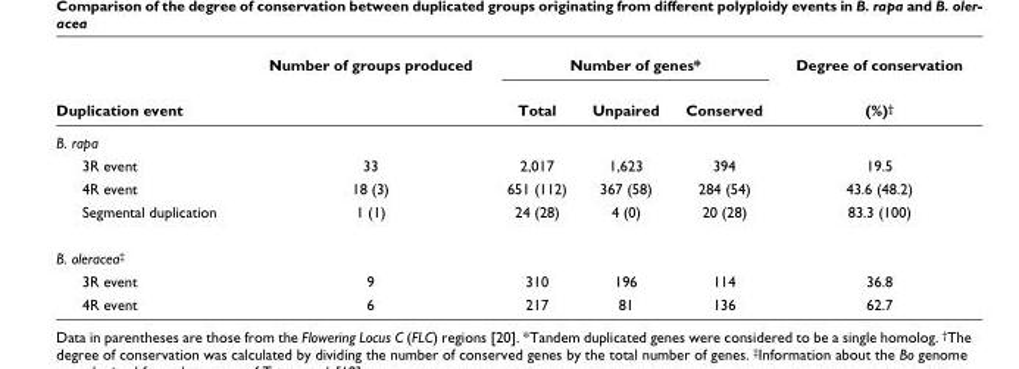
<table><thead><tr><td rowspan="2">Duplication event</td><td rowspan="2">Number of groups produced</td><td colspan="3">Number of genes*</td><td rowspan="2">Degree of conservation (%)<sup>†</sup></td></tr><tr><td>Total</td><td>Unpaired</td><td>Conserved</td></tr></thead><tbody><tr><td colspan="6">B. rapa</td></tr><tr><td>3R event</td><td>33</td><td>2,017</td><td>1,623</td><td>394</td><td>19.5</td></tr><tr><td>4R event</td><td>18 (3)</td><td>651 (112)</td><td>367 (58)</td><td>284 (54)</td><td>43.6 (48.2)</td></tr><tr><td>Segmental duplication</td><td>1 (1)</td><td>24 (28)</td><td>4 (0)</td><td>20 (28)</td><td>83.3 (100)</td></tr><tr><td colspan="6">B. oleracea<sup>‡</sup></td></tr><tr><td>3R event</td><td>9</td><td>310</td><td>196</td><td>114</td><td>36.8</td></tr><tr><td>4R event</td><td>6</td><td>217</td><td>81</td><td>136</td><td>62.7</td></tr></tbody></table>